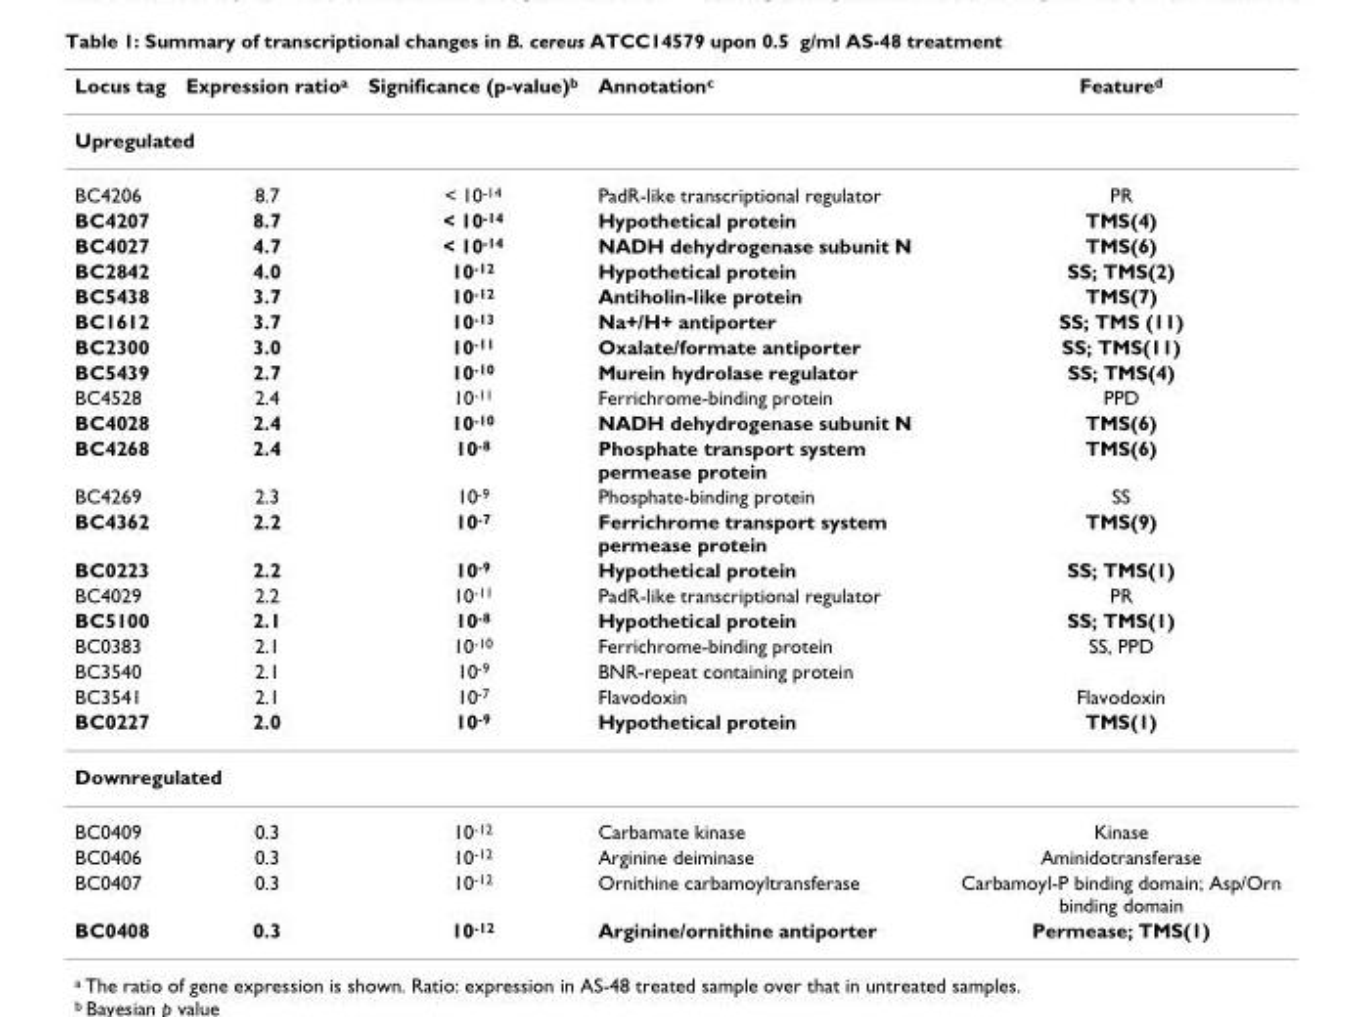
<table><thead><tr><td>Locus tag</td><td>Expression ratio<sup>a</sup></td><td>Significance (p-value)<sup>b</sup></td><td>Annotation<sup>c</sup></td><td>Feature<sup>d</sup></td></tr></thead><tbody><tr><td colspan="5">Upregulated</td></tr><tr><td>BC4206</td><td>8.7</td><td>&lt; 10<sup>-14</sup></td><td>PadR-like transcriptional regulator</td><td>PR</td></tr><tr><td>BC4207</td><td>8.7</td><td>&lt; 10<sup>-14</sup></td><td>Hypothetical protein</td><td>TMS(4)</td></tr><tr><td>BC4027</td><td>4.7</td><td>&lt; 10<sup>-14</sup></td><td>NADH dehydrogenase subunit N</td><td>TMS(6)</td></tr><tr><td>BC2842</td><td>4.0</td><td>10<sup>-12</sup></td><td>Hypothetical protein</td><td>SS; TMS(2)</td></tr><tr><td>BC5438</td><td>3.7</td><td>10<sup>-12</sup></td><td>Antiholin-like protein</td><td>TMS(7)</td></tr><tr><td>BC1612</td><td>3.7</td><td>10<sup>-13</sup></td><td>Na+/H+ antiporter</td><td>SS; TMS (11)</td></tr><tr><td>BC2300</td><td>3.0</td><td>10<sup>-11</sup></td><td>Oxalate/formate antiporter</td><td>SS; TMS(11)</td></tr><tr><td>BC5439</td><td>2.7</td><td>10<sup>-10</sup></td><td>Murein hydrolase regulator</td><td>SS; TMS(4)</td></tr><tr><td>BC4528</td><td>2.4</td><td>10<sup>-11</sup></td><td>Ferrichrome-binding protein</td><td>PPD</td></tr><tr><td>BC4028</td><td>2.4</td><td>10<sup>-10</sup></td><td>NADH dehydrogenase subunit N</td><td>TMS(6)</td></tr><tr><td>BC4268</td><td>2.4</td><td>10<sup>-8</sup></td><td>Phosphate transport system permease protein</td><td>TMS(6)</td></tr><tr><td>BC4269</td><td>2.3</td><td>10<sup>-9</sup></td><td>Phosphate-binding protein</td><td>SS</td></tr><tr><td>BC4362</td><td>2.2</td><td>10<sup>-7</sup></td><td>Ferrichrome transport system permease protein</td><td>TMS(9)</td></tr><tr><td>BC0223</td><td>2.2</td><td>10<sup>-9</sup></td><td>Hypothetical protein</td><td>SS; TMS(1)</td></tr><tr><td>BC4029</td><td>2.2</td><td>10<sup>-11</sup></td><td>PadR-like transcriptional regulator</td><td>PR</td></tr><tr><td>BC5100</td><td>2.1</td><td>10<sup>-8</sup></td><td>Hypothetical protein</td><td>SS; TMS(1)</td></tr><tr><td>BC0383</td><td>2.1</td><td>10<sup>-10</sup></td><td>Ferrichrome-binding protein</td><td>SS, PPD</td></tr><tr><td>BC3540</td><td>2.1</td><td>10<sup>-9</sup></td><td>BNR-repeat containing protein</td><td></td></tr><tr><td>BC3541</td><td>2.1</td><td>10<sup>-7</sup></td><td>Flavodoxin</td><td>Flavodoxin</td></tr><tr><td>BC0227</td><td>2.0</td><td>10<sup>-9</sup></td><td>Hypothetical protein</td><td>TMS(1)</td></tr><tr><td colspan="5">Downregulated</td></tr><tr><td>BC0409</td><td>0.3</td><td>10<sup>-12</sup></td><td>Carbamate kinase</td><td>Kinase</td></tr><tr><td>BC0406</td><td>0.3</td><td>10<sup>-12</sup></td><td>Arginine deiminase</td><td>Aminidotransferase</td></tr><tr><td>BC0407</td><td>0.3</td><td>10<sup>-12</sup></td><td>Ornithine carbamoyltransferase</td><td>Carbamoyl-P binding domain; Asp/Orn binding domain</td></tr><tr><td>BC0408</td><td>0.3</td><td>10<sup>-12</sup></td><td>Arginine/ornithine antiporter</td><td>Permease; TMS(1)</td></tr></tbody></table>